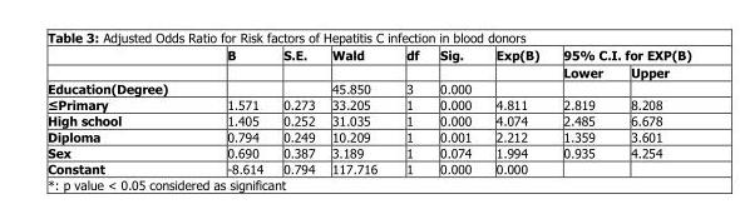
<table><thead><tr><td rowspan="2"></td><td rowspan="2">B</td><td rowspan="2">S.E.</td><td rowspan="2">Wald</td><td rowspan="2">df</td><td rowspan="2">Sig.</td><td rowspan="2">Exp(B)</td><td colspan="2">95% C.I. for EXP(B)</td></tr><tr><td>Lower</td><td>Upper</td></tr></thead><tbody><tr><td>Education(Degree)</td><td></td><td></td><td>45.850</td><td>3</td><td>0.000</td><td></td><td></td><td></td></tr><tr><td>≤Primary</td><td>1.571</td><td>0.273</td><td>33.205</td><td>1</td><td>0.000</td><td>4.811</td><td>2.819</td><td>8.208</td></tr><tr><td>High school</td><td>1.405</td><td>0.252</td><td>31.035</td><td>1</td><td>0.000</td><td>4.074</td><td>2.485</td><td>6.678</td></tr><tr><td>Diploma</td><td>0.794</td><td>0.249</td><td>10.209</td><td>1</td><td>0.001</td><td>2.212</td><td>1.359</td><td>3.601</td></tr><tr><td>Sex</td><td>0.690</td><td>0.387</td><td>3.189</td><td>1</td><td>0.074</td><td>1.994</td><td>0.935</td><td>4.254</td></tr><tr><td>Constant</td><td>-8.614</td><td>0.794</td><td>117.716</td><td>1</td><td>0.000</td><td>0.000</td><td></td><td></td></tr></tbody></table>